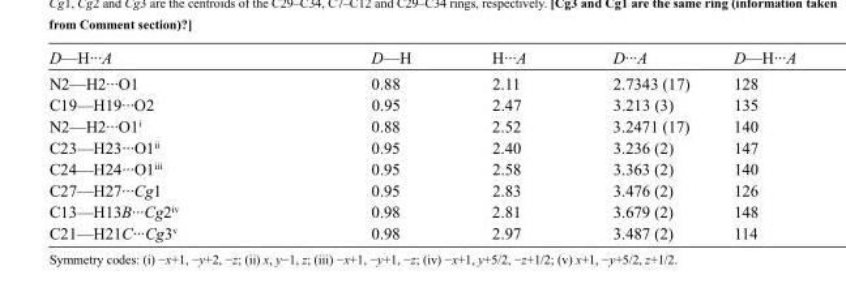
<table><tbody><tr><td>D—H···A</td><td>D—H</td><td>H···A</td><td>D···A</td><td>D—H···A</td></tr><tr><td>N2—H2···O1</td><td>0.88</td><td>2.11</td><td>2.7343 (17)</td><td>128</td></tr><tr><td>C19—H19···O2</td><td>0.95</td><td>2.47</td><td>3.213 (3)</td><td>135</td></tr><tr><td>N2—H2···O1<sup>i</sup></td><td>0.88</td><td>2.52</td><td>3.2471 (17)</td><td>140</td></tr><tr><td>C23—H23···O1<sup>ii</sup></td><td>0.95</td><td>2.40</td><td>3.236 (2)</td><td>147</td></tr><tr><td>C24—H24···O1<sup>iii</sup></td><td>0.95</td><td>2.58</td><td>3.363 (2)</td><td>140</td></tr><tr><td>C27—H27···Cg1</td><td>0.95</td><td>2.83</td><td>3.476 (2)</td><td>126</td></tr><tr><td>C13—H13B···Cg2<sup>iv</sup></td><td>0.98</td><td>2.81</td><td>3.679 (2)</td><td>148</td></tr><tr><td>C21—H21C···Cg3<sup>v</sup></td><td>0.98</td><td>2.97</td><td>3.487 (2)</td><td>114</td></tr></tbody></table>